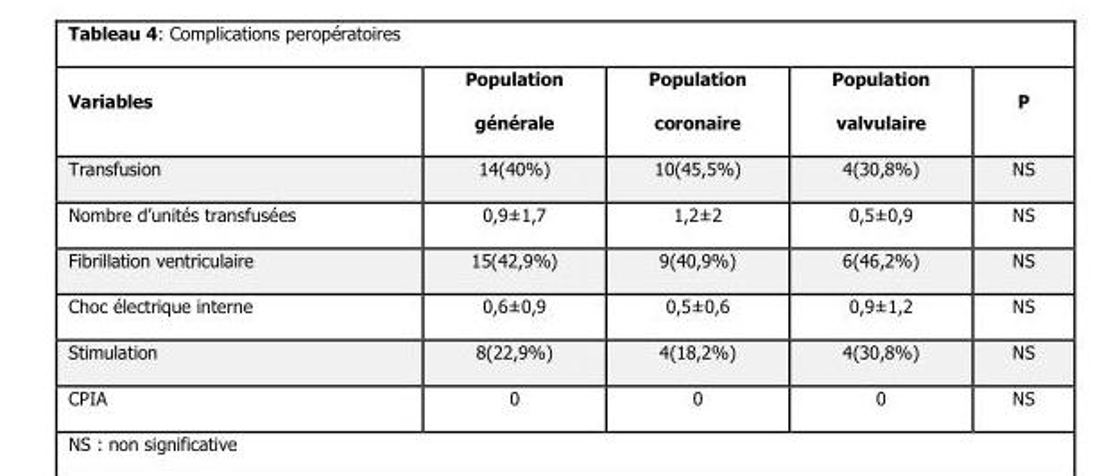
<table><thead><tr><td>Variables</td><td>Population générale</td><td>Population coronaire</td><td>Population valvulaire</td><td>P</td></tr></thead><tbody><tr><td>Transfusion</td><td>14(40%)</td><td>10(45,5%)</td><td>4(30,8%)</td><td>NS</td></tr><tr><td>Nombre d’unités transfusées</td><td>0,9±1,7</td><td>1,2±2</td><td>0,5±0,9</td><td>NS</td></tr><tr><td>Fibrillation ventriculaire</td><td>15(42,9%)</td><td>9(40,9%)</td><td>6(46,2%)</td><td>NS</td></tr><tr><td>Choc électrique interne</td><td>0,6±0,9</td><td>0,5±0,6</td><td>0,9±1,2</td><td>NS</td></tr><tr><td>Stimulation</td><td>8(22,9%)</td><td>4(18,2%)</td><td>4(30,8%)</td><td>NS</td></tr><tr><td>CPIA</td><td>0</td><td>0</td><td>0</td><td>NS</td></tr></tbody></table>